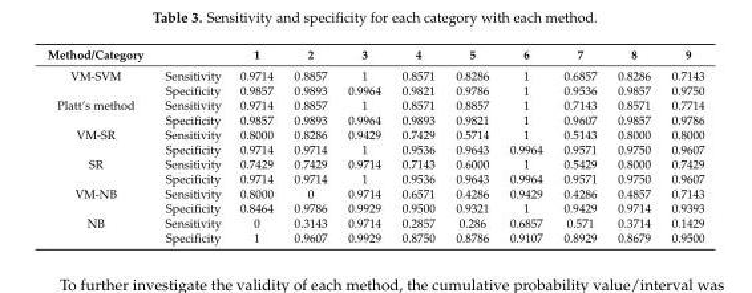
<table><thead><tr><td>Method/Category</td><td></td><td>1</td><td>2</td><td>3</td><td>4</td><td>5</td><td>6</td><td>7</td><td>8</td><td>9</td></tr></thead><tbody><tr><td rowspan="2">VM-SVM</td><td>Sensitivity</td><td>0.9714</td><td>0.8857</td><td>1</td><td>0.8571</td><td>0.8286</td><td>1</td><td>0.6857</td><td>0.8286</td><td>0.7143</td></tr><tr><td>Specificity</td><td>0.9857</td><td>0.9893</td><td>0.9964</td><td>0.9821</td><td>0.9786</td><td>1</td><td>0.9536</td><td>0.9857</td><td>0.9750</td></tr><tr><td rowspan="2">Platt’s method</td><td>Sensitivity</td><td>0.9714</td><td>0.8857</td><td>1</td><td>0.8571</td><td>0.8857</td><td>1</td><td>0.7143</td><td>0.8571</td><td>0.7714</td></tr><tr><td>Specificity</td><td>0.9857</td><td>0.9893</td><td>0.9964</td><td>0.9893</td><td>0.9821</td><td>1</td><td>0.9607</td><td>0.9857</td><td>0.9786</td></tr><tr><td rowspan="2">VM-SR</td><td>Sensitivity</td><td>0.8000</td><td>0.8286</td><td>0.9429</td><td>0.7429</td><td>0.5714</td><td>1</td><td>0.5143</td><td>0.8000</td><td>0.8000</td></tr><tr><td>Specificity</td><td>0.9714</td><td>0.9714</td><td>1</td><td>0.9536</td><td>0.9643</td><td>0.9964</td><td>0.9571</td><td>0.9750</td><td>0.9607</td></tr><tr><td rowspan="2">SR</td><td>Sensitivity</td><td>0.7429</td><td>0.7429</td><td>0.9714</td><td>0.7143</td><td>0.6000</td><td>1</td><td>0.5429</td><td>0.8000</td><td>0.7429</td></tr><tr><td>Specificity</td><td>0.9714</td><td>0.9714</td><td>1</td><td>0.9536</td><td>0.9643</td><td>0.9964</td><td>0.9571</td><td>0.9750</td><td>0.9607</td></tr><tr><td rowspan="2">VM-NB</td><td>Sensitivity</td><td>0.8000</td><td>0</td><td>0.9714</td><td>0.6571</td><td>0.4286</td><td>0.9429</td><td>0.4286</td><td>0.4857</td><td>0.7143</td></tr><tr><td>Specificity</td><td>0.8464</td><td>0.9786</td><td>0.9929</td><td>0.9500</td><td>0.9321</td><td>1</td><td>0.9429</td><td>0.9714</td><td>0.9393</td></tr><tr><td rowspan="2">NB</td><td>Sensitivity</td><td>0</td><td>0.3143</td><td>0.9714</td><td>0.2857</td><td>0.286</td><td>0.6857</td><td>0.571</td><td>0.3714</td><td>0.1429</td></tr><tr><td>Specificity</td><td>1</td><td>0.9607</td><td>0.9929</td><td>0.8750</td><td>0.8786</td><td>0.9107</td><td>0.8929</td><td>0.8679</td><td>0.9500</td></tr></tbody></table>